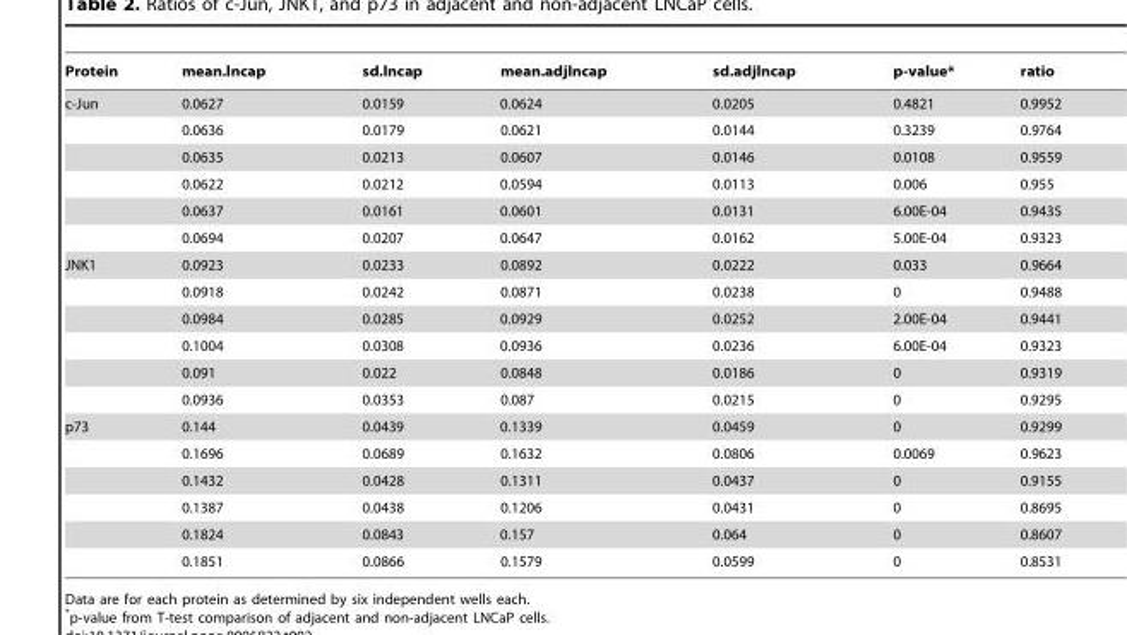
<table><thead><tr><td>Protein</td><td>mean.lncap</td><td>sd.lncap</td><td>mean.adjlncap</td><td>sd.adjlncap</td><td>p-value*</td><td>ratio</td></tr></thead><tbody><tr><td rowspan="6">c-Jun</td><td>0.0627</td><td>0.0159</td><td>0.0624</td><td>0.0205</td><td>0.4821</td><td>0.9952</td></tr><tr><td>0.0636</td><td>0.0179</td><td>0.0621</td><td>0.0144</td><td>0.3239</td><td>0.9764</td></tr><tr><td>0.0635</td><td>0.0213</td><td>0.0607</td><td>0.0146</td><td>0.0108</td><td>0.9559</td></tr><tr><td>0.0622</td><td>0.0212</td><td>0.0594</td><td>0.0113</td><td>0.006</td><td>0.955</td></tr><tr><td>0.0637</td><td>0.0161</td><td>0.0601</td><td>0.0131</td><td>6.00E-04</td><td>0.9435</td></tr><tr><td>0.0694</td><td>0.0207</td><td>0.0647</td><td>0.0162</td><td>5.00E-04</td><td>0.9323</td></tr><tr><td rowspan="6">JNK1</td><td>0.0923</td><td>0.0233</td><td>0.0892</td><td>0.0222</td><td>0.033</td><td>0.9664</td></tr><tr><td>0.0918</td><td>0.0242</td><td>0.0871</td><td>0.0238</td><td>0</td><td>0.9488</td></tr><tr><td>0.0984</td><td>0.0285</td><td>0.0929</td><td>0.0252</td><td>2.00E-04</td><td>0.9441</td></tr><tr><td>0.1004</td><td>0.0308</td><td>0.0936</td><td>0.0236</td><td>6.00E-04</td><td>0.9323</td></tr><tr><td>0.091</td><td>0.022</td><td>0.0848</td><td>0.0186</td><td>0</td><td>0.9319</td></tr><tr><td>0.0936</td><td>0.0353</td><td>0.087</td><td>0.0215</td><td>0</td><td>0.9295</td></tr><tr><td rowspan="6">p73</td><td>0.144</td><td>0.0439</td><td>0.1339</td><td>0.0459</td><td>0</td><td>0.9299</td></tr><tr><td>0.1696</td><td>0.0689</td><td>0.1632</td><td>0.0806</td><td>0.0069</td><td>0.9623</td></tr><tr><td>0.1432</td><td>0.0428</td><td>0.1311</td><td>0.0437</td><td>0</td><td>0.9155</td></tr><tr><td>0.1387</td><td>0.0438</td><td>0.1206</td><td>0.0431</td><td>0</td><td>0.8695</td></tr><tr><td>0.1824</td><td>0.0843</td><td>0.157</td><td>0.064</td><td>0</td><td>0.8607</td></tr><tr><td>0.1851</td><td>0.0866</td><td>0.1579</td><td>0.0599</td><td>0</td><td>0.8531</td></tr></tbody></table>